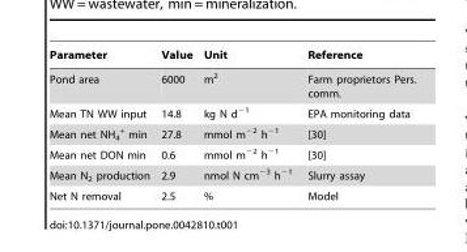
<table><thead><tr><td>Parameter</td><td>Value</td><td>Unit</td><td>Reference</td></tr></thead><tbody><tr><td>Pond area</td><td>6000</td><td>m<sup>2</sup></td><td>Farm proprietors Pers. comm.</td></tr><tr><td>Mean TN WW input</td><td>14.8</td><td>kg N d<sup>−1</sup></td><td>EPA monitoring data</td></tr><tr><td>Mean net NH<sub>4</sub> <sup>+</sup> min</td><td>27.8</td><td>mmol m<sup>−2</sup> h<sup>−1</sup></td><td>[30]</td></tr><tr><td>Mean net DON min</td><td>0.6</td><td>mmol m<sup>−2</sup> h<sup>−1</sup></td><td>[30]</td></tr><tr><td>Mean N<sub>2</sub> production</td><td>2.9</td><td>nmol N cm<sup>−3</sup> h<sup>−1</sup></td><td>Slurry assay</td></tr><tr><td>Net N removal</td><td>2.5</td><td>%</td><td>Model</td></tr></tbody></table>